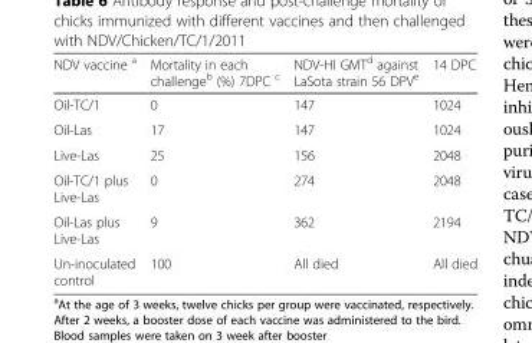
<table><thead><tr><td>NDV vaccine <sup>a</sup></td><td>Mortality in each challenge<sup>b</sup> (%) 7DPC <sup>c</sup></td><td>NDV-HI GMT<sup>d</sup> against LaSota strain 56 DPV<sup>e</sup></td><td>14 DPC</td></tr></thead><tbody><tr><td>Oil-TC/1</td><td>0</td><td>147</td><td>1024</td></tr><tr><td>Oil-Las</td><td>17</td><td>147</td><td>1024</td></tr><tr><td>Live-Las</td><td>25</td><td>156</td><td>2048</td></tr><tr><td>Oil-TC/1 plus Live-Las</td><td>0</td><td>274</td><td>2048</td></tr><tr><td>Oil-Las plus Live-Las</td><td>9</td><td>362</td><td>2194</td></tr><tr><td>Un-inoculated control</td><td>100</td><td>All died</td><td>All died</td></tr></tbody></table>